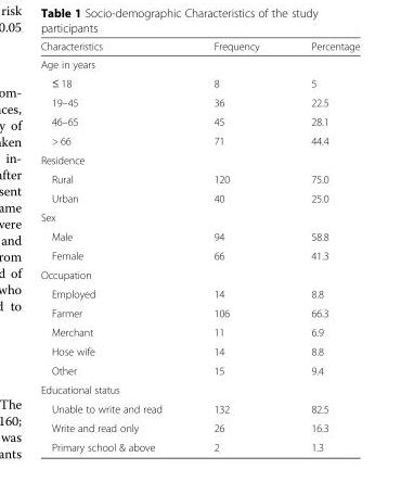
<table><thead><tr><td>Characteristics</td><td>Frequency</td><td>Percentage</td></tr></thead><tbody><tr><td colspan="3">Age in years</td></tr><tr><td>≤ 18</td><td>8</td><td>5</td></tr><tr><td>19–45</td><td>36</td><td>22.5</td></tr><tr><td>46–65</td><td>45</td><td>28.1</td></tr><tr><td>&gt; 66</td><td>71</td><td>44.4</td></tr><tr><td colspan="3">Residence</td></tr><tr><td>Rural</td><td>120</td><td>75.0</td></tr><tr><td>Urban</td><td>40</td><td>25.0</td></tr><tr><td colspan="3">Sex</td></tr><tr><td>Male</td><td>94</td><td>58.8</td></tr><tr><td>Female</td><td>66</td><td>41.3</td></tr><tr><td colspan="3">Occupation</td></tr><tr><td>Employed</td><td>14</td><td>8.8</td></tr><tr><td>Farmer</td><td>106</td><td>66.3</td></tr><tr><td>Merchant</td><td>11</td><td>6.9</td></tr><tr><td>Hose wife</td><td>14</td><td>8.8</td></tr><tr><td>Other</td><td>15</td><td>9.4</td></tr><tr><td colspan="3">Educational status</td></tr><tr><td>Unable to write and read</td><td>132</td><td>82.5</td></tr><tr><td>Write and read only</td><td>26</td><td>16.3</td></tr><tr><td>Primary school &amp; above</td><td>2</td><td>1.3</td></tr></tbody></table>